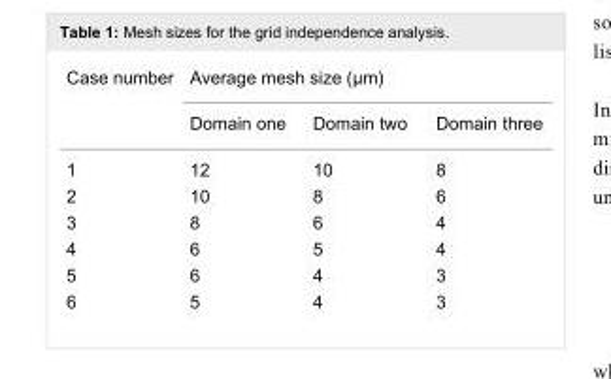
<table><tbody><tr><td rowspan="2">Case number</td><td colspan="3">Average mesh size (μm)</td></tr><tr><td>Domain one</td><td>Domain two</td><td>Domain three</td></tr><tr><td>1</td><td>12</td><td>10</td><td>8</td></tr><tr><td>2</td><td>10</td><td>8</td><td>6</td></tr><tr><td>3</td><td>8</td><td>6</td><td>4</td></tr><tr><td>4</td><td>6</td><td>5</td><td>4</td></tr><tr><td>5</td><td>6</td><td>4</td><td>3</td></tr><tr><td>6</td><td>5</td><td>4</td><td>3</td></tr></tbody></table>